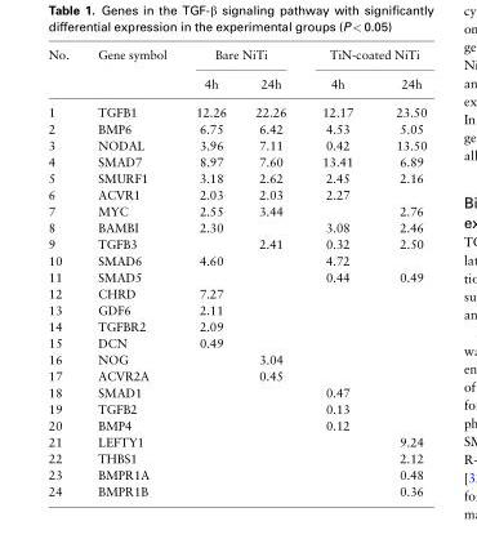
<table><thead><tr><td rowspan="2">No.</td><td rowspan="2">Gene symbol</td><td colspan="2">Bare NiTi</td><td colspan="2">TiN-coated NiTi</td></tr><tr><td>4h</td><td>24h</td><td>4h</td><td>24h</td></tr></thead><tbody><tr><td>1</td><td>TGFB1</td><td>12.26</td><td>22.26</td><td>12.17</td><td>23.50</td></tr><tr><td>2</td><td>BMP6</td><td>6.75</td><td>6.42</td><td>4.53</td><td>5.05</td></tr><tr><td>3</td><td>NODAL</td><td>3.96</td><td>7.11</td><td>0.42</td><td>13.50</td></tr><tr><td>4</td><td>SMAD7</td><td>8.97</td><td>7.60</td><td>13.41</td><td>6.89</td></tr><tr><td>5</td><td>SMURF1</td><td>3.18</td><td>2.62</td><td>2.45</td><td>2.16</td></tr><tr><td>6</td><td>ACVR1</td><td>2.03</td><td>2.03</td><td>2.27</td><td></td></tr><tr><td>7</td><td>MYC</td><td>2.55</td><td>3.44</td><td></td><td>2.76</td></tr><tr><td>8</td><td>BAMBI</td><td>2.30</td><td></td><td>3.08</td><td>2.46</td></tr><tr><td>9</td><td>TGFB3</td><td></td><td>2.41</td><td>0.32</td><td>2.50</td></tr><tr><td>10</td><td>SMAD6</td><td>4.60</td><td></td><td>4.72</td><td></td></tr><tr><td>11</td><td>SMAD5</td><td></td><td></td><td>0.44</td><td>0.49</td></tr><tr><td>12</td><td>CHRD</td><td>7.27</td><td></td><td></td><td></td></tr><tr><td>13</td><td>GDF6</td><td>2.11</td><td></td><td></td><td></td></tr><tr><td>14</td><td>TGFBR2</td><td>2.09</td><td></td><td></td><td></td></tr><tr><td>15</td><td>DCN</td><td>0.49</td><td></td><td></td><td></td></tr><tr><td>16</td><td>NOG</td><td></td><td>3.04</td><td></td><td></td></tr><tr><td>17</td><td>ACVR2A</td><td></td><td>0.45</td><td></td><td></td></tr><tr><td>18</td><td>SMAD1</td><td></td><td></td><td>0.47</td><td></td></tr><tr><td>19</td><td>TGFB2</td><td></td><td></td><td>0.13</td><td></td></tr><tr><td>20</td><td>BMP4</td><td></td><td></td><td>0.12</td><td></td></tr><tr><td>21</td><td>LEFTY1</td><td></td><td></td><td></td><td>9.24</td></tr><tr><td>22</td><td>THBS1</td><td></td><td></td><td></td><td>2.12</td></tr><tr><td>23</td><td>BMPR1A</td><td></td><td></td><td></td><td>0.48</td></tr><tr><td>24</td><td>BMPR1B</td><td></td><td></td><td></td><td>0.36</td></tr></tbody></table>